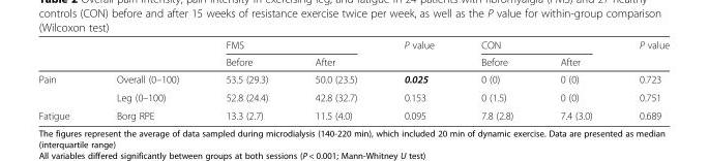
<table><thead><tr><td rowspan="2"></td><td rowspan="2"></td><td colspan="2">FMS</td><td rowspan="2">P value</td><td colspan="2">CON</td><td rowspan="2">P value</td></tr><tr><td>Before</td><td>After</td><td>Before</td><td>After</td></tr></thead><tbody><tr><td rowspan="2">Pain</td><td>Overall (0–100)</td><td>53.5 (29.3)</td><td>50.0 (23.5)</td><td>0.025</td><td>0 (0)</td><td>0 (0)</td><td>0.723</td></tr><tr><td>Leg (0–100)</td><td>52.8 (24.4)</td><td>42.8 (32.7)</td><td>0.153</td><td>0 (1.5)</td><td>0 (0)</td><td>0.751</td></tr><tr><td>Fatigue</td><td>Borg RPE</td><td>13.3 (2.7)</td><td>11.5 (4.0)</td><td>0.095</td><td>7.8 (2.8)</td><td>7.4 (3.0)</td><td>0.689</td></tr></tbody></table>